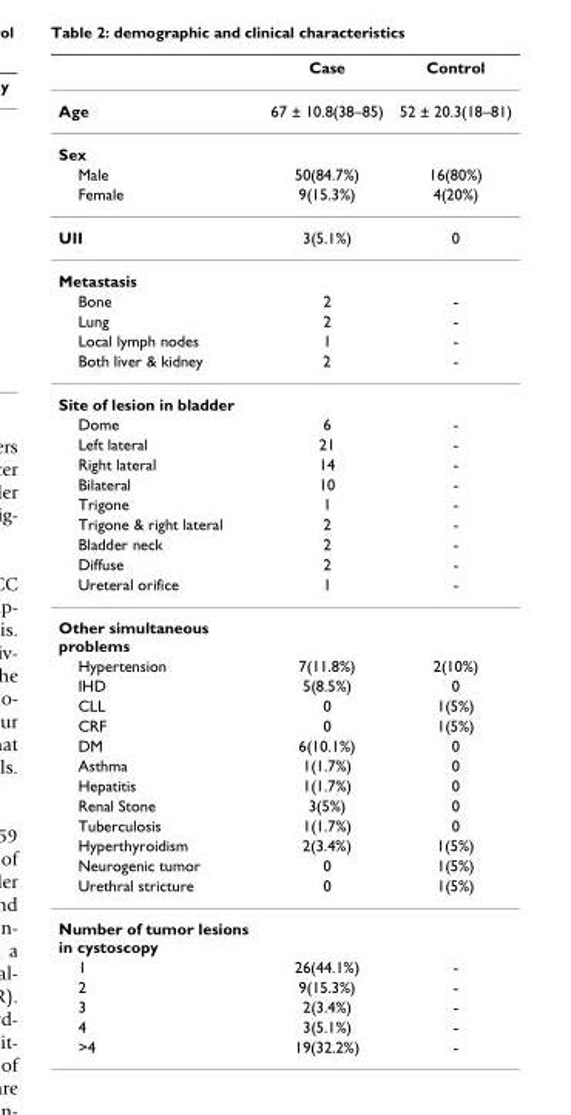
<table><thead><tr><td></td><td>Case</td><td>Control</td></tr></thead><tbody><tr><td>Age</td><td>67 ± 10.8(38–85)</td><td>52 ± 20.3(18–81)</td></tr><tr><td colspan="3">Sex</td></tr><tr><td>Male</td><td>50(84.7%)</td><td>16(80%)</td></tr><tr><td>Female</td><td>9(15.3%)</td><td>4(20%)</td></tr><tr><td>UII</td><td>3(5.1%)</td><td>0</td></tr><tr><td colspan="3">Metastasis</td></tr><tr><td>Bone</td><td>2</td><td>-</td></tr><tr><td>Lung</td><td>2</td><td>-</td></tr><tr><td>Local lymph nodes</td><td>1</td><td>-</td></tr><tr><td>Both liver &amp; kidney</td><td>2</td><td>-</td></tr><tr><td colspan="3">Site of lesion in bladder</td></tr><tr><td>Dome</td><td>6</td><td>-</td></tr><tr><td>Left lateral</td><td>21</td><td>-</td></tr><tr><td>Right lateral</td><td>14</td><td>-</td></tr><tr><td>Bilateral</td><td>10</td><td>-</td></tr><tr><td>Trigone</td><td>1</td><td>-</td></tr><tr><td>Trigone &amp; right lateral</td><td>2</td><td>-</td></tr><tr><td>Bladder neck</td><td>2</td><td>-</td></tr><tr><td>Diffuse</td><td>2</td><td>-</td></tr><tr><td>Ureteral orifice</td><td>1</td><td>-</td></tr><tr><td colspan="3">Other simultaneous problems</td></tr><tr><td>Hypertension</td><td>7(11.8%)</td><td>2(10%)</td></tr><tr><td>IHD</td><td>5(8.5%)</td><td>0</td></tr><tr><td>CLL</td><td>0</td><td>1(5%)</td></tr><tr><td>CRF</td><td>0</td><td>1(5%)</td></tr><tr><td>DM</td><td>6(10.1%)</td><td>0</td></tr><tr><td>Asthma</td><td>1(1.7%)</td><td>0</td></tr><tr><td>Hepatitis</td><td>1(1.7%)</td><td>0</td></tr><tr><td>Renal Stone</td><td>3(5%)</td><td>0</td></tr><tr><td>Tuberculosis</td><td>1(1.7%)</td><td>0</td></tr><tr><td>Hyperthyroidism</td><td>2(3.4%)</td><td>1(5%)</td></tr><tr><td>Neurogenic tumor</td><td>0</td><td>1(5%)</td></tr><tr><td>Urethral stricture</td><td>0</td><td>1(5%)</td></tr><tr><td colspan="3">Number of tumor lesions in cystoscopy</td></tr><tr><td>1</td><td>26(44.1%)</td><td>-</td></tr><tr><td>2</td><td>9(15.3%)</td><td>-</td></tr><tr><td>3</td><td>2(3.4%)</td><td>-</td></tr><tr><td>4</td><td>3(5.1%)</td><td>-</td></tr><tr><td>&gt;4</td><td>19(32.2%)</td><td>-</td></tr></tbody></table>